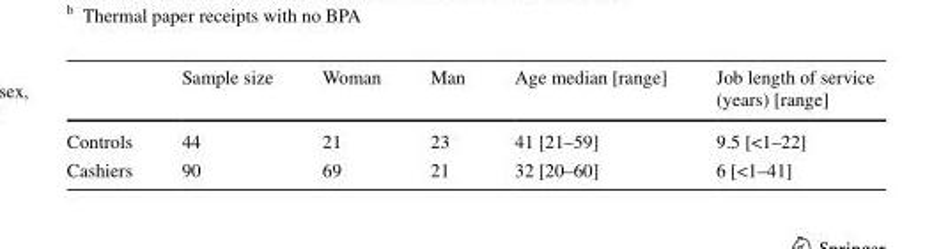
<table><thead><tr><td></td><td>Sample size</td><td>Woman</td><td>Man</td><td>Age median [range]</td><td>Job length of service (years) [range]</td></tr></thead><tbody><tr><td>Controls</td><td>44</td><td>21</td><td>23</td><td>41 [21–59]</td><td>9.5 [&lt;1–22]</td></tr><tr><td>Cashiers</td><td>90</td><td>69</td><td>21</td><td>32 [20–60]</td><td>6 [&lt;1–41]</td></tr></tbody></table>